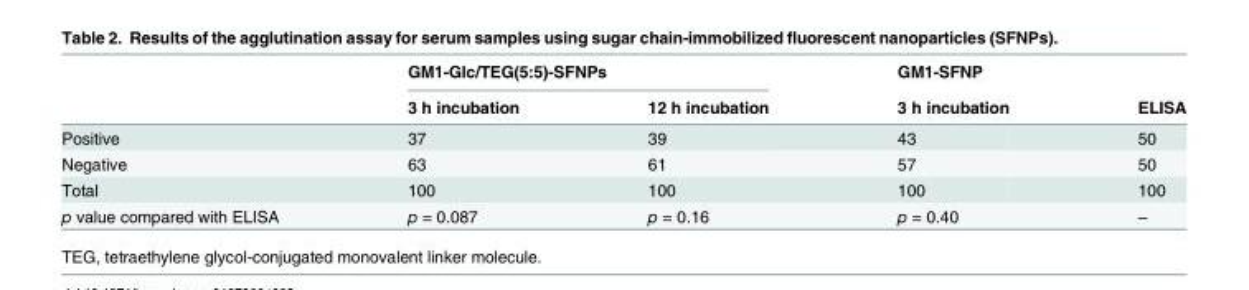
<table><thead><tr><td rowspan="2"></td><td colspan="2">GM1-Glc/TEG(5:5)-SFNPs</td><td rowspan="2">GM1-SFNP 3 h incubation</td><td rowspan="2">ELISA</td></tr><tr><td>3 h incubation</td><td>12 h incubation</td></tr></thead><tbody><tr><td>Positive</td><td>37</td><td>39</td><td>43</td><td>50</td></tr><tr><td>Negative</td><td>63</td><td>61</td><td>57</td><td>50</td></tr><tr><td>Total</td><td>100</td><td>100</td><td>100</td><td>100</td></tr><tr><td>p value compared with ELISA</td><td>p = 0.087</td><td>p = 0.16</td><td>p = 0.40</td><td>–</td></tr></tbody></table>